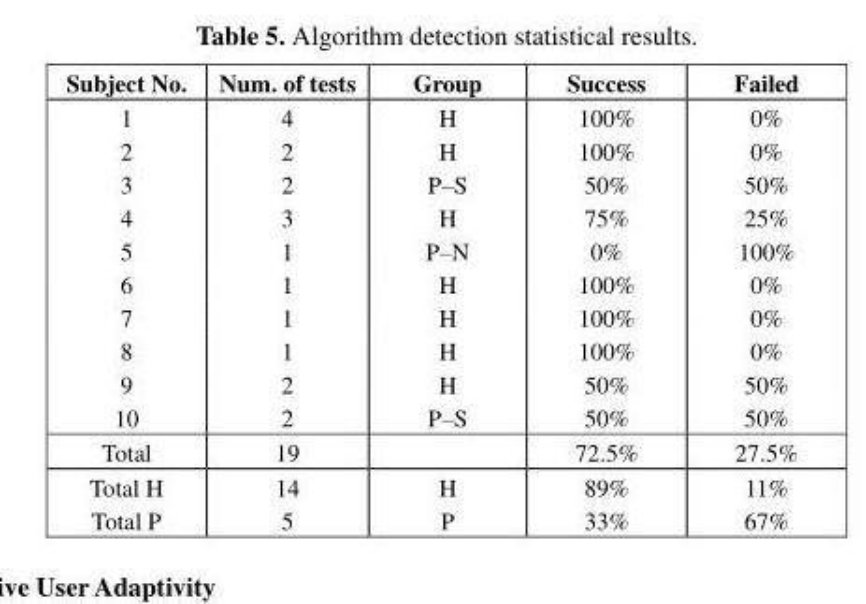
<table><thead><tr><td>Subject No.</td><td>Num. of tests</td><td>Group</td><td>Success</td><td>Failed</td></tr></thead><tbody><tr><td>1</td><td>4</td><td>H</td><td>100%</td><td>0%</td></tr><tr><td>2</td><td>2</td><td>H</td><td>100%</td><td>0%</td></tr><tr><td>3</td><td>2</td><td>P–S</td><td>50%</td><td>50%</td></tr><tr><td>4</td><td>3</td><td>H</td><td>75%</td><td>25%</td></tr><tr><td>5</td><td>1</td><td>P–N</td><td>0%</td><td>100%</td></tr><tr><td>6</td><td>1</td><td>H</td><td>100%</td><td>0%</td></tr><tr><td>7</td><td>1</td><td>H</td><td>100%</td><td>0%</td></tr><tr><td>8</td><td>1</td><td>H</td><td>100%</td><td>0%</td></tr><tr><td>9</td><td>2</td><td>H</td><td>50%</td><td>50%</td></tr><tr><td>10</td><td>2</td><td>P–S</td><td>50%</td><td>50%</td></tr><tr><td>Total</td><td>19</td><td></td><td>72.5%</td><td>27.5%</td></tr><tr><td>Total H</td><td>14</td><td>H</td><td>89%</td><td>11%</td></tr><tr><td>Total P</td><td>5</td><td>P</td><td>33%</td><td>67%</td></tr></tbody></table>